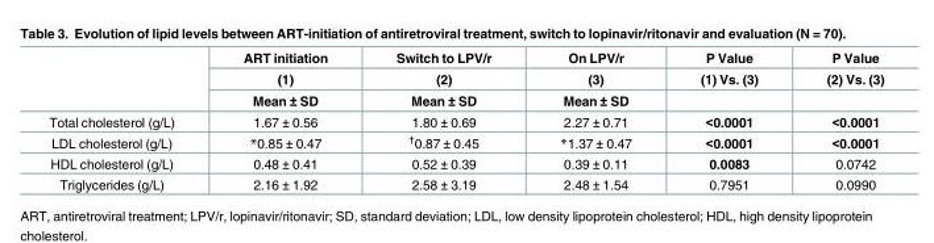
<table><thead><tr><td rowspan="3"></td><td rowspan="3">ART initiation (1) Mean ± SD</td><td rowspan="3">Switch to LPV/r (2) Mean ± SD</td><td rowspan="3">On LPV/r (3) Mean ± SD</td><td rowspan="3">P Value (1) Vs. (3)</td><td rowspan="3">P Value (2) Vs. (3)</td></tr><tr></tr><tr></tr></thead><tbody><tr><td>Total cholesterol (g/L)</td><td>1.67 ± 0.56</td><td>1.80 ± 0.69</td><td>2.27 ± 0.71</td><td>&lt;0.0001</td><td>&lt;0.0001</td></tr><tr><td>LDL cholesterol (g/L)</td><td>*0.85 ± 0.47</td><td><sup>†</sup>0.87 ± 0.45</td><td>*1.37 ± 0.47</td><td>&lt;0.0001</td><td>&lt;0.0001</td></tr><tr><td>HDL cholesterol (g/L)</td><td>0.48 ± 0.41</td><td>0.52 ± 0.39</td><td>0.39 ± 0.11</td><td>0.0083</td><td>0.0742</td></tr><tr><td>Triglycerides (g/L)</td><td>2.16 ± 1.92</td><td>2.58 ± 3.19</td><td>2.48 ± 1.54</td><td>0.7951</td><td>0.0990</td></tr></tbody></table>